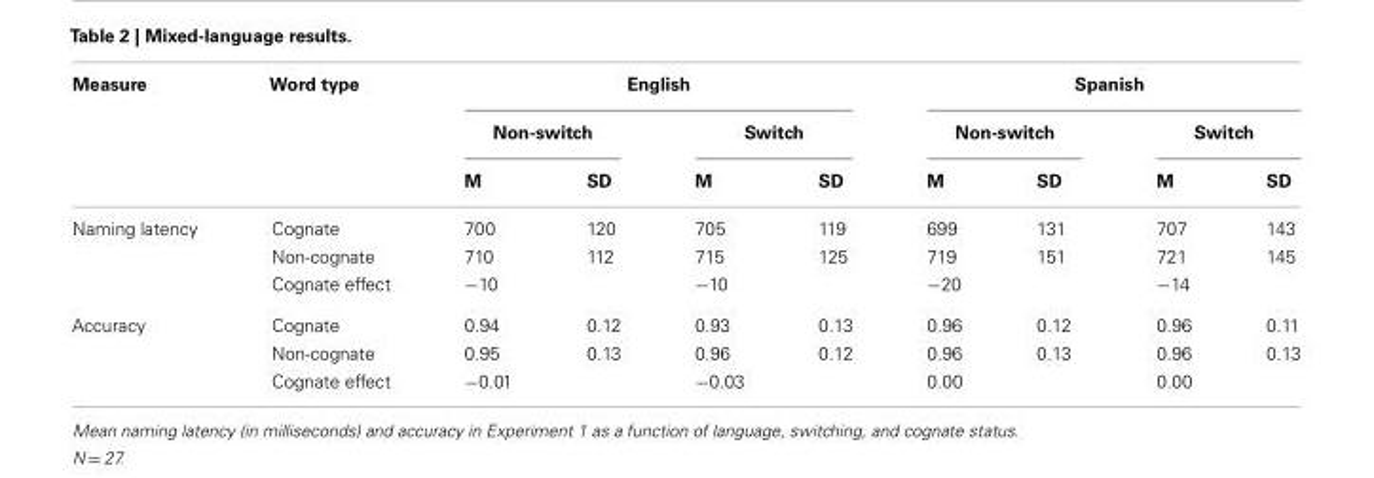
<table><thead><tr><td rowspan="3">Measure</td><td rowspan="3">Word type</td><td colspan="4">English</td><td colspan="4">Spanish</td></tr><tr><td colspan="2">Non-switch</td><td colspan="2">Switch</td><td colspan="2">Non-switch</td><td colspan="2">Switch</td></tr><tr><td>M</td><td>SD</td><td>M</td><td>SD</td><td>M</td><td>SD</td><td>M</td><td>SD</td></tr></thead><tbody><tr><td rowspan="3">Naming latency</td><td>Cognate</td><td>700</td><td>120</td><td>705</td><td>119</td><td>699</td><td>131</td><td>707</td><td>143</td></tr><tr><td>Non-cognate</td><td>710</td><td>112</td><td>715</td><td>125</td><td>719</td><td>151</td><td>721</td><td>145</td></tr><tr><td>Cognate effect</td><td>−10</td><td></td><td>−10</td><td></td><td>−20</td><td></td><td>−14</td><td></td></tr><tr><td rowspan="3">Accuracy</td><td>Cognate</td><td>0.94</td><td>0.12</td><td>0.93</td><td>0.13</td><td>0.96</td><td>0.12</td><td>0.96</td><td>0.11</td></tr><tr><td>Non-cognate</td><td>0.95</td><td>0.13</td><td>0.96</td><td>0.12</td><td>0.96</td><td>0.13</td><td>0.96</td><td>0.13</td></tr><tr><td>Cognate effect</td><td>−0.01</td><td></td><td>−0.03</td><td></td><td>0.00</td><td></td><td>0.00</td><td></td></tr></tbody></table>